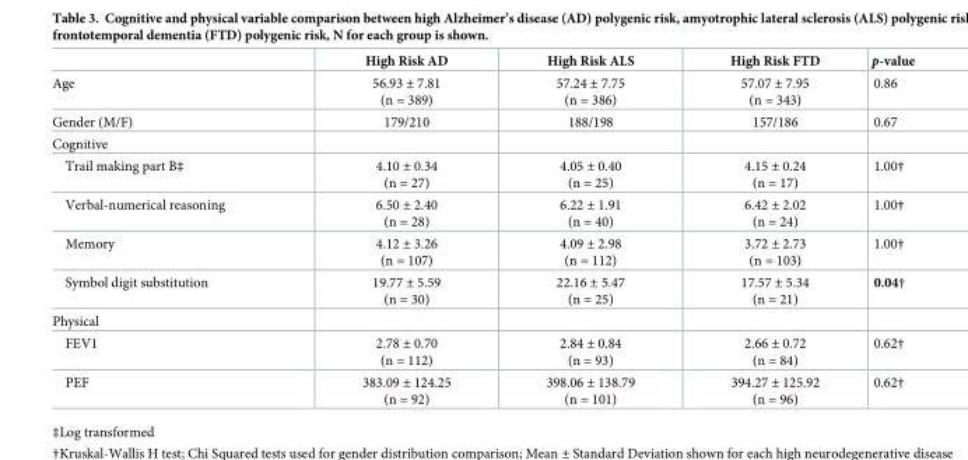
<table><thead><tr><td></td><td>High Risk AD</td><td>High Risk ALS</td><td>High Risk FTD</td><td>p-value</td></tr></thead><tbody><tr><td>Age</td><td>56.93 ± 7.81 (n = 389)</td><td>57.24 ± 7.75 (n = 386)</td><td>57.07 ± 7.95 (n = 343)</td><td>0.86</td></tr><tr><td>Gender (M/F)</td><td>179/210</td><td>188/198</td><td>157/186</td><td>0.67</td></tr><tr><td colspan="5">Cognitive</td></tr><tr><td>Trail making part B‡</td><td>4.10 ± 0.34 (n = 27)</td><td>4.05 ± 0.40 (n = 25)</td><td>4.15 ± 0.24 (n = 17)</td><td>1.00†</td></tr><tr><td>Verbal-numerical reasoning</td><td>6.50 ± 2.40 (n = 28)</td><td>6.22 ± 1.91 (n = 40)</td><td>6.42 ± 2.02 (n = 24)</td><td>1.00†</td></tr><tr><td>Memory</td><td>4.12 ± 3.26 (n = 107)</td><td>4.09 ± 2.98 (n = 112)</td><td>3.72 ± 2.73 (n = 103)</td><td>1.00†</td></tr><tr><td>Symbol digit substitution</td><td>19.77 ± 5.59 (n = 30)</td><td>22.16 ± 5.47 (n = 25)</td><td>17.57 ± 5.34 (n = 21)</td><td>0.04†</td></tr><tr><td colspan="5">Physical</td></tr><tr><td>FEV1</td><td>2.78 ± 0.70 (n = 112)</td><td>2.84 ± 0.84 (n = 93)</td><td>2.66 ± 0.72 (n = 84)</td><td>0.62†</td></tr><tr><td>PEF</td><td>383.09 ± 124.25 (n = 92)</td><td>398.06 ± 138.79 (n = 101)</td><td>394.27 ± 125.92 (n = 96)</td><td>0.62†</td></tr></tbody></table>